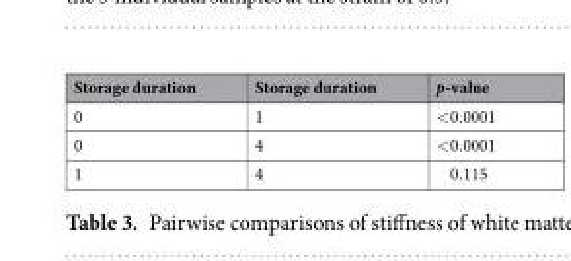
<table><thead><tr><td>Storage duration</td><td>Storage duration</td><td>p-value</td></tr></thead><tbody><tr><td>0</td><td>1</td><td>&lt;0.0001</td></tr><tr><td>0</td><td>4</td><td>&lt;0.0001</td></tr><tr><td>1</td><td>4</td><td>0.115</td></tr></tbody></table>